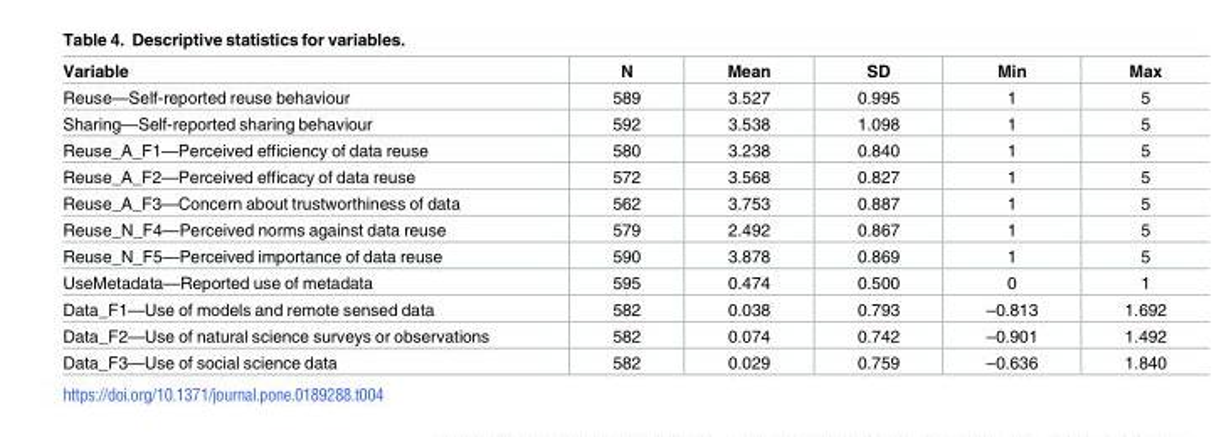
<table><thead><tr><td>Variable</td><td>N</td><td>Mean</td><td>SD</td><td>Min</td><td>Max</td></tr></thead><tbody><tr><td>Reuse—Self-reported reuse behaviour</td><td>589</td><td>3.527</td><td>0.995</td><td>1</td><td>5</td></tr><tr><td>Sharing—Self-reported sharing behaviour</td><td>592</td><td>3.538</td><td>1.098</td><td>1</td><td>5</td></tr><tr><td>Reuse_A_F1—Perceived efficiency of data reuse</td><td>580</td><td>3.238</td><td>0.840</td><td>1</td><td>5</td></tr><tr><td>Reuse_A_F2—Perceived efficacy of data reuse</td><td>572</td><td>3.568</td><td>0.827</td><td>1</td><td>5</td></tr><tr><td>Reuse_A_F3—Concern about trustworthiness of data</td><td>562</td><td>3.753</td><td>0.887</td><td>1</td><td>5</td></tr><tr><td>Reuse_N_F4—Perceived norms against data reuse</td><td>579</td><td>2.492</td><td>0.867</td><td>1</td><td>5</td></tr><tr><td>Reuse_N_F5—Perceived importance of data reuse</td><td>590</td><td>3.878</td><td>0.869</td><td>1</td><td>5</td></tr><tr><td>UseMetadata—Reported use of metadata</td><td>595</td><td>0.474</td><td>0.500</td><td>0</td><td>1</td></tr><tr><td>Data_F1—Use of models and remote sensed data</td><td>582</td><td>0.038</td><td>0.793</td><td>–0.813</td><td>1.692</td></tr><tr><td>Data_F2—Use of natural science surveys or observations</td><td>582</td><td>0.074</td><td>0.742</td><td>–0.901</td><td>1.492</td></tr><tr><td>Data_F3—Use of social science data</td><td>582</td><td>0.029</td><td>0.759</td><td>–0.636</td><td>1.840</td></tr></tbody></table>